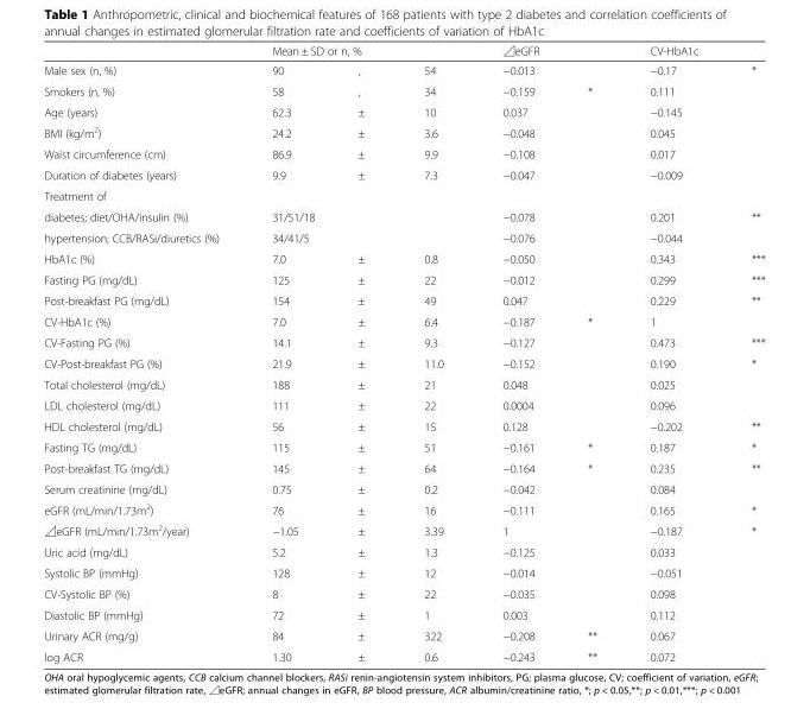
<table><thead><tr><td rowspan="2">Male sex (n, %)</td><td colspan="3">Mean ± SD or n, %</td><td colspan="2">⊿eGFR</td><td rowspan="2">CV-HbA1c −0.17</td><td rowspan="2">*</td></tr><tr><td>90</td><td>,</td><td>54</td><td>−0.013</td><td></td></tr></thead><tbody><tr><td>Smokers (n, %)</td><td>58</td><td>,</td><td>34</td><td>−0.159</td><td>*</td><td>0.111</td><td></td></tr><tr><td>Age (years)</td><td>62.3</td><td>±</td><td>10</td><td>0.037</td><td></td><td>−0.145</td><td></td></tr><tr><td>BMI (kg/m<sup>2</sup>)</td><td>24.2</td><td>±</td><td>3.6</td><td>−0.048</td><td></td><td>0.045</td><td></td></tr><tr><td>Waist circumference (cm)</td><td>86.9</td><td>±</td><td>9.9</td><td>−0.108</td><td></td><td>0.017</td><td></td></tr><tr><td>Duration of diabetes (years)</td><td>9.9</td><td>±</td><td>7.3</td><td>−0.047</td><td></td><td>−0.009</td><td></td></tr><tr><td colspan="8">Treatment of</td></tr><tr><td>diabetes; diet/OHA/insulin (%)</td><td colspan="3">31/51/18</td><td>−0.078</td><td></td><td>0.201</td><td>**</td></tr><tr><td>hypertension; CCB/RASi/diuretics (%)</td><td colspan="3">34/41/5</td><td>−0.076</td><td></td><td>−0.044</td><td></td></tr><tr><td>HbA1c (%)</td><td>7.0</td><td>±</td><td>0.8</td><td>−0.050</td><td></td><td>0.343</td><td>***</td></tr><tr><td>Fasting PG (mg/dL)</td><td>125</td><td>±</td><td>22</td><td>−0.012</td><td></td><td>0.299</td><td>***</td></tr><tr><td>Post-breakfast PG (mg/dL)</td><td>154</td><td>±</td><td>49</td><td>0.047</td><td></td><td>0.229</td><td>**</td></tr><tr><td>CV-HbA1c (%)</td><td>7.0</td><td>±</td><td>6.4</td><td>−0.187</td><td>*</td><td>1</td><td></td></tr><tr><td>CV-Fasting PG (%)</td><td>14.1</td><td>±</td><td>9.3</td><td>−0.127</td><td></td><td>0.473</td><td>***</td></tr><tr><td>CV-Post-breakfast PG (%)</td><td>21.9</td><td>±</td><td>11.0</td><td>−0.152</td><td></td><td>0.190</td><td>*</td></tr><tr><td>Total cholesterol (mg/dL)</td><td>188</td><td>±</td><td>21</td><td>0.048</td><td></td><td>0.025</td><td></td></tr><tr><td>LDL cholesterol (mg/dL)</td><td>111</td><td>±</td><td>22</td><td>0.0004</td><td></td><td>0.096</td><td></td></tr><tr><td>HDL cholesterol (mg/dL)</td><td>56</td><td>±</td><td>15</td><td>0.128</td><td></td><td>−0.202</td><td>**</td></tr><tr><td>Fasting TG (mg/dL)</td><td>115</td><td>±</td><td>51</td><td>−0.161</td><td>*</td><td>0.187</td><td>*</td></tr><tr><td>Post-breakfast TG (mg/dL)</td><td>145</td><td>±</td><td>64</td><td>−0.164</td><td>*</td><td>0.235</td><td>**</td></tr><tr><td>Serum creatinine (mg/dL)</td><td>0.75</td><td>±</td><td>0.2</td><td>−0.042</td><td></td><td>0.084</td><td></td></tr><tr><td>eGFR (mL/min/1.73m<sup>2</sup>)</td><td>76</td><td>±</td><td>16</td><td>−0.111</td><td></td><td>0.165</td><td>*</td></tr><tr><td>⊿eGFR (mL/min/1.73m<sup>2</sup>/year)</td><td>−1.05</td><td>±</td><td>3.39</td><td>1</td><td></td><td>−0.187</td><td>*</td></tr><tr><td>Uric acid (mg/dL)</td><td>5.2</td><td>±</td><td>1.3</td><td>−0.125</td><td></td><td>0.033</td><td></td></tr><tr><td>Systolic BP (mmHg)</td><td>128</td><td>±</td><td>12</td><td>−0.014</td><td></td><td>−0.051</td><td></td></tr><tr><td>CV-Systolic BP (%)</td><td>8</td><td>±</td><td>22</td><td>−0.035</td><td></td><td>0.098</td><td></td></tr><tr><td>Diastolic BP (mmHg)</td><td>72</td><td>±</td><td>1</td><td>0.003</td><td></td><td>0.112</td><td></td></tr><tr><td>Urinary ACR (mg/g)</td><td>84</td><td>±</td><td>322</td><td>−0.208</td><td>**</td><td>0.067</td><td></td></tr><tr><td>log ACR</td><td>1.30</td><td>±</td><td>0.6</td><td>−0.243</td><td>**</td><td>0.072</td><td></td></tr></tbody></table>